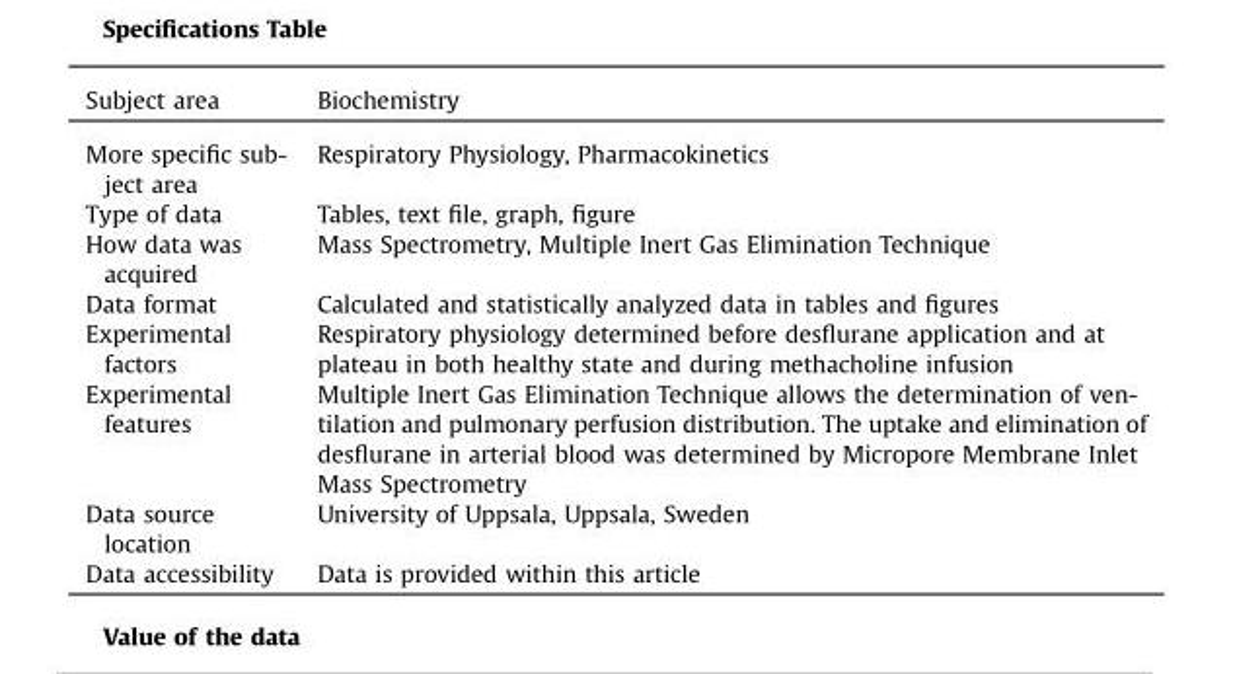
<table><thead><tr><td>Subject area</td><td>Biochemistry</td></tr></thead><tbody><tr><td>More specific sub- ject area</td><td>Respiratory Physiology, Pharmacokinetics</td></tr><tr><td>Type of data</td><td>Tables, text file, graph, figure</td></tr><tr><td>How data was acquired</td><td>Mass Spectrometry, Multiple Inert Gas Elimination Technique</td></tr><tr><td>Data format</td><td>Calculated and statistically analyzed data in tables and figures</td></tr><tr><td>Experimental factors</td><td>Respiratory physiology determined before desflurane application and at plateau in both healthy state and during methacholine infusion</td></tr><tr><td>Experimental features</td><td>Multiple Inert Gas Elimination Technique allows the determination of ven- tilation and pulmonary perfusion distribution. The uptake and elimination of desflurane in arterial blood was determined by Micropore Membrane Inlet Mass Spectrometry</td></tr><tr><td>Data source location</td><td>University of Uppsala, Uppsala, Sweden</td></tr><tr><td>Data accessibility</td><td>Data is provided within this article</td></tr></tbody></table>